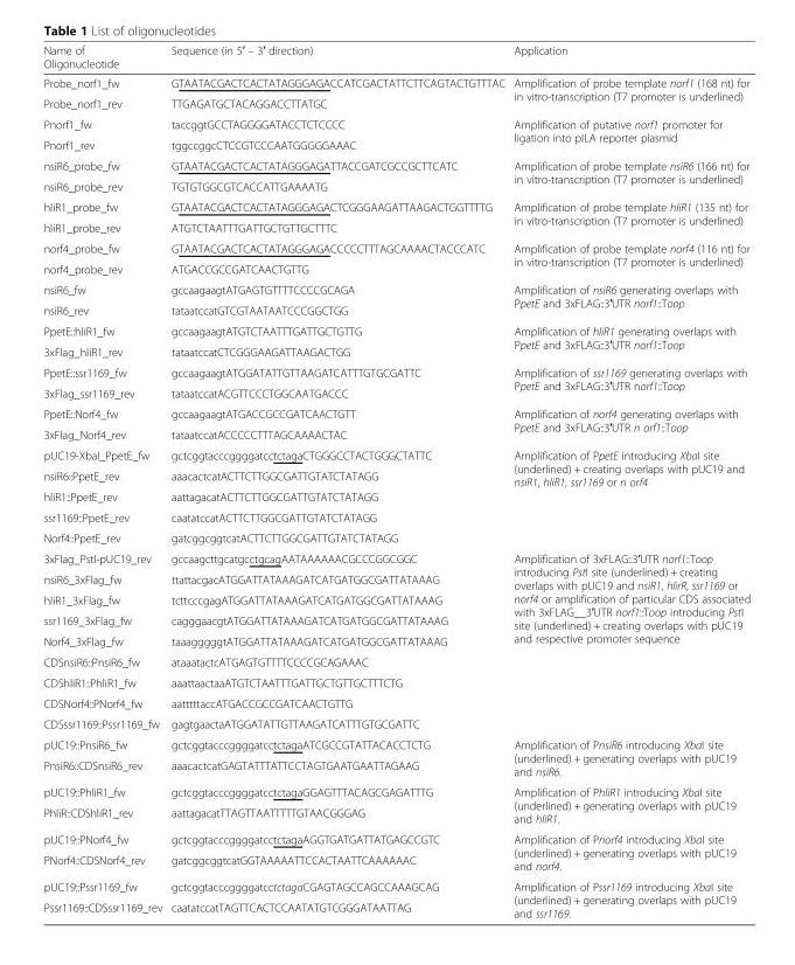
<table><thead><tr><td>Name of Oligonucleotide</td><td>Sequence (in 5′ – 3′ direction)</td><td>Application</td></tr></thead><tbody><tr><td>Probe_norf1_fw</td><td>GTAATACGACTCACTATAGGGAGACCATCGACTATTCTTCAGTACTGTTTAC</td><td rowspan="2">Amplification of probe template norf1 (168 nt) for in vitro-transcription (T7 promoter is underlined)</td></tr><tr><td>Probe_norf1_rev</td><td>TTGAGATGCTACAGGACCTTATGC</td></tr><tr><td>Pnorf1_fw</td><td>taccggtGCCTAGGGGATACCTCTCCCC</td><td rowspan="2">Amplification of putative norf1 promoter for ligation into pILA reporter plasmid</td></tr><tr><td>Pnorf1_rev</td><td>tggccggcCTCCGTCCCAATGGGGGAAAC</td></tr><tr><td>nsiR6_probe_fw</td><td>GTAATACGACTCACTATAGGGAGATTACCGATCGCCGCTTCATC</td><td rowspan="2">Amplification of probe template nsiR6 (166 nt) for in vitro-transcription (T7 promoter is underlined)</td></tr><tr><td>nsiR6_probe_rev</td><td>TGTGTGGCGTCACCATTGAAAATG</td></tr><tr><td>hliR1_probe_fw</td><td>GTAATACGACTCACTATAGGGAGACTCGGGAAGATTAAGACTGGTTTTG</td><td rowspan="2">Amplification of probe template hliR1 (135 nt) for in vitro-transcription (T7 promoter is underlined)</td></tr><tr><td>hliR1_probe_rev</td><td>ATGTCTAATTTGATTGCTGTTGCTTTC</td></tr><tr><td>norf4_probe_fw</td><td>GTAATACGACTCACTATAGGGAGACCCCCTTTAGCAAAACTACCCATC</td><td rowspan="2">Amplification of probe template norf4 (116 nt) for in vitro-transcription (T7 promoter is underlined)</td></tr><tr><td>norf4_probe_rev</td><td>ATGACCGCCGATCAACTGTTG</td></tr><tr><td>nsiR6_fw</td><td>gccaagaagtATGAGTGTTTTCCCCGCAGA</td><td rowspan="2">Amplification of nsiR6 generating overlaps with PpetE and 3xFLAG::3′UTR norf1::Toop</td></tr><tr><td>nsiR6_rev</td><td>tataatccatGTCGTAATAATCCCGGCTGG</td></tr><tr><td>PpetE::hliR1_fw</td><td>gccaagaagtATGTCTAATTTGATTGCTGTTG</td><td rowspan="2">Amplification of hliR1 generating overlaps with PpetE and 3xFLAG::3′UTR norf1::Toop</td></tr><tr><td>3xFlag_hliR1_rev</td><td>tataatccatCTCGGGAAGATTAAGACTGG</td></tr><tr><td>PpetE::ssr1169_fw</td><td>gccaagaagtATGGATATTGTTAAGATCATTTGTGCGATTC</td><td rowspan="2">Amplification of ssr1169 generating overlaps with PpetE and 3xFLAG::3′UTR norf1::Toop</td></tr><tr><td>3xFlag_ssr1169_rev</td><td>tataatccatACGTTCCCTGGCAATGACCC</td></tr><tr><td>PpetE::Norf4_fw</td><td>gccaagaagtATGACCGCCGATCAACTGTT</td><td rowspan="2">Amplification of norf4 generating overlaps with PpetE and 3xFLAG::3′UTR n orf1::Toop</td></tr><tr><td>3xFlag_Norf4_rev</td><td>tataatccatACCCCCTTTAGCAAAACTAC</td></tr><tr><td>pUC19-XbaI_PpetE_fw</td><td>gctcggtacccggggatcctctagaCTGGGCCTACTGGGCTATTC</td><td rowspan="5">Amplification of PpetE introducing XbaI site (underlined) + creating overlaps with pUC19 and nsiR1, hliR1, ssr1169 or n orf4</td></tr><tr><td>nsiR6::PpetE_rev</td><td>aaacactcatACTTCTTGGCGATTGTATCTATAGG</td></tr><tr><td>hliR1::PpetE_rev</td><td>aattagacatACTTCTTGGCGATTGTATCTATAGG</td></tr><tr><td>ssr1169::PpetE_rev</td><td>caatatccatACTTCTTGGCGATTGTATCTATAGG</td></tr><tr><td>Norf4::PpetE_rev</td><td>gatcggcggtcatACTTCTTGGCGATTGTATCTATAGG</td></tr><tr><td>3xFlag_PstI-pUC19_rev</td><td>gccaagcttgcatgcctgcagAATAAAAAACGCCCGGCGGC</td><td rowspan="9">Amplification of 3xFLAG::3′UTR norf1::Toop introducing PstI site (underlined) + creating overlaps with pUC19 and nsiR1, hlirR, ssr1169 or norf4 or amplification of particular CDS associated with 3xFLAG__3′UTR norf1::Toop introducing PstI site (underlined) + creating overlaps with pUC19 and respective promoter sequence</td></tr><tr><td>nsiR6_3xFlag_fw</td><td>ttattacgacATGGATTATAAAGATCATGATGGCGATTATAAAG</td></tr><tr><td>hliR1_3xFlag_fw</td><td>tcttcccgagATGGATTATAAAGATCATGATGGCGATTATAAAG</td></tr><tr><td>ssr1169_3xFlag_fw</td><td>cagggaacgtATGGATTATAAAGATCATGATGGCGATTATAAAG</td></tr><tr><td>Norf4_3xFlag_fw</td><td>taaagggggtATGGATTATAAAGATCATGATGGCGATTATAAAG</td></tr><tr><td>CDSnsiR6::PnsiR6_fw</td><td>ataaatactcATGAGTGTTTTCCCCGCAGAAAC</td></tr><tr><td>CDShliR1::PhliR1_fw</td><td>aaattaactaaATGTCTAATTTGATTGCTGTTGCTTTCTG</td></tr><tr><td>CDSNorf4::PNorf4_fw</td><td>aatttttaccATGACCGCCGATCAACTGTTG</td></tr><tr><td>CDSssr1169::Pssr1169_fw</td><td>gagtgaactaATGGATATTGTTAAGATCATTTGTGCGATTC</td></tr><tr><td>pUC19::PnsiR6_fw</td><td>gctcggtacccggggatcctctagaATCGCCGTATTACACCTCTG</td><td rowspan="2">Amplification of PnsiR6 introducing XbaI site (underlined) + generating overlaps with pUC19 and nsiR6.</td></tr><tr><td>PnsiR6::CDSnsiR6_rev</td><td>aaacactcatGAGTATTTATTCCTAGTGAATGAATTAGAAG</td></tr><tr><td>pUC19::PhliR1_fw</td><td>gctcggtacccggggatcctctagaGGAGTTTACAGCGAGATTTG</td><td rowspan="2">Amplification of PhliR1 introducing XbaI site (underlined) + generating overlaps with pUC19 and hliR1.</td></tr><tr><td>PhliR::CDShliR1_rev</td><td>aattagacatTTAGTTAATTTTTGTAACGGGAG</td></tr><tr><td>pUC19::PNorf4_fw</td><td>gctcggtacccggggatcctctagaAGGTGATGATTATGAGCCGTC</td><td rowspan="2">Amplification of Pnorf4 introducing XbaI site (underlined) + generating overlaps with pUC19 and norf4.</td></tr><tr><td>PNorf4::CDSNorf4_rev</td><td>gatcggcggtcatGGTAAAAATTCCACTAATTCAAAAAAC</td></tr><tr><td>pUC19::Pssr1169_fw</td><td>gctcggtacccggggatcctctagaCGAGTAGCCAGCCAAAGCAG</td><td rowspan="2">Amplification of Pssr1169 introducing XbaI site (underlined) + generating overlaps with pUC19 and ssr1169.</td></tr><tr><td>Pssr1169::CDSssr1169_rev</td><td>caatatccatTAGTTCACTCCAATATGTCGGGATAATTAG</td></tr></tbody></table>